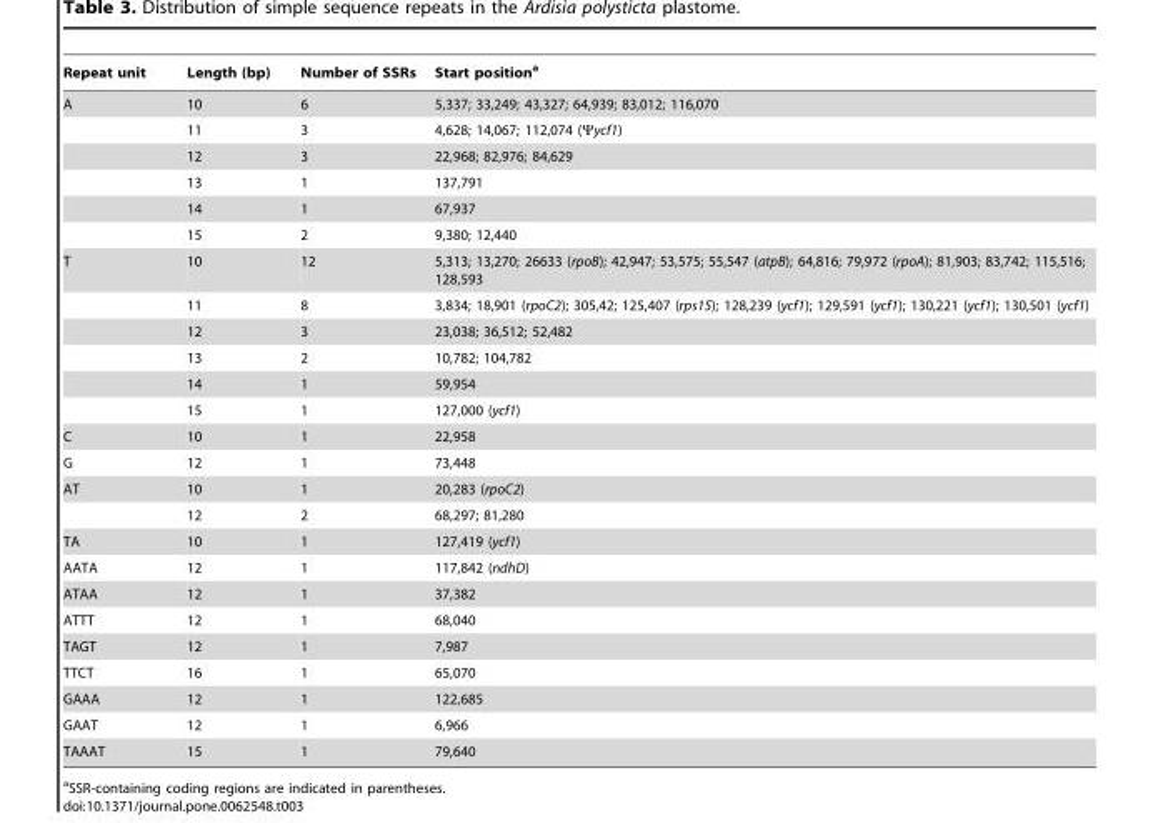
<table><thead><tr><td>Repeat unit</td><td>Length (bp)</td><td>Number of SSRs</td><td>Start position<sup>a</sup></td></tr></thead><tbody><tr><td rowspan="6">A</td><td>10</td><td>6</td><td>5,337; 33,249; 43,327; 64,939; 83,012; 116,070</td></tr><tr><td>11</td><td>3</td><td>4,628; 14,067; 112,074 (Ψycf1)</td></tr><tr><td>12</td><td>3</td><td>22,968; 82,976; 84,629</td></tr><tr><td>13</td><td>1</td><td>137,791</td></tr><tr><td>14</td><td>1</td><td>67,937</td></tr><tr><td>15</td><td>2</td><td>9,380; 12,440</td></tr><tr><td rowspan="6">T</td><td>10</td><td>12</td><td>5,313; 13,270; 26633 (rpoB); 42,947; 53,575; 55,547 (atpB); 64,816; 79,972 (rpoA); 81,903; 83,742; 115,516; 128,593</td></tr><tr><td>11</td><td>8</td><td>3,834; 18,901 (rpoC2); 305,42; 125,407 (rps15); 128,239 (ycf1); 129,591 (ycf1); 130,221 (ycf1); 130,501 (ycf1)</td></tr><tr><td>12</td><td>3</td><td>23,038; 36,512; 52,482</td></tr><tr><td>13</td><td>2</td><td>10,782; 104,782</td></tr><tr><td>14</td><td>1</td><td>59,954</td></tr><tr><td>15</td><td>1</td><td>127,000 (ycf1)</td></tr><tr><td>C</td><td>10</td><td>1</td><td>22,958</td></tr><tr><td>G</td><td>12</td><td>1</td><td>73,448</td></tr><tr><td rowspan="2">AT</td><td>10</td><td>1</td><td>20,283 (rpoC2)</td></tr><tr><td>12</td><td>2</td><td>68,297; 81,280</td></tr><tr><td>TA</td><td>10</td><td>1</td><td>127,419 (ycf1)</td></tr><tr><td>AATA</td><td>12</td><td>1</td><td>117,842 (ndhD)</td></tr><tr><td>ATAA</td><td>12</td><td>1</td><td>37,382</td></tr><tr><td>ATTT</td><td>12</td><td>1</td><td>68,040</td></tr><tr><td>TAGT</td><td>12</td><td>1</td><td>7,987</td></tr><tr><td>TTCT</td><td>16</td><td>1</td><td>65,070</td></tr><tr><td>GAAA</td><td>12</td><td>1</td><td>122,685</td></tr><tr><td>GAAT</td><td>12</td><td>1</td><td>6,966</td></tr><tr><td>TAAAT</td><td>15</td><td>1</td><td>79,640</td></tr></tbody></table>